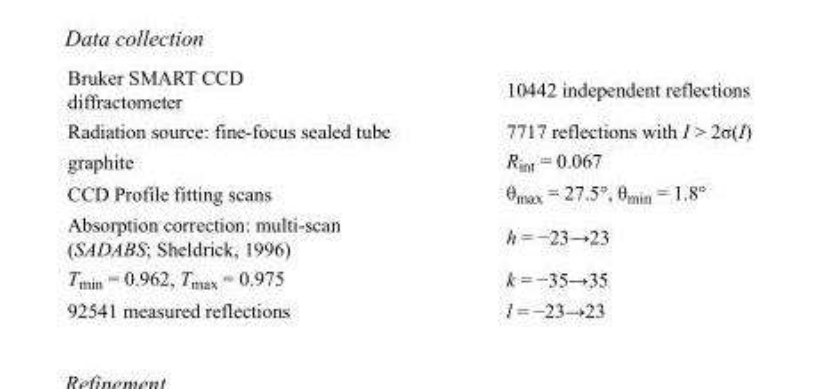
<table><tbody><tr><td>Bruker SMART CCD diffractometer</td><td>10442 independent reflections</td></tr><tr><td>Radiation source: fine-focus sealed tube</td><td>7717 reflections with I &gt; 2σ(I)</td></tr><tr><td>graphite</td><td>R<sub>int</sub> = 0.067</td></tr><tr><td>CCD Profile fitting scans</td><td>θ<sub>max</sub> = 27.5°, θ<sub>min</sub> = 1.8°</td></tr><tr><td>Absorption correction: multi-scan (SADABS; Sheldrick, 1996)</td><td>h = −23→23</td></tr><tr><td>T<sub>min</sub> = 0.962, T<sub>max</sub> = 0.975</td><td>k = −35→35</td></tr><tr><td>92541 measured reflections</td><td>l = −23→23</td></tr></tbody></table>